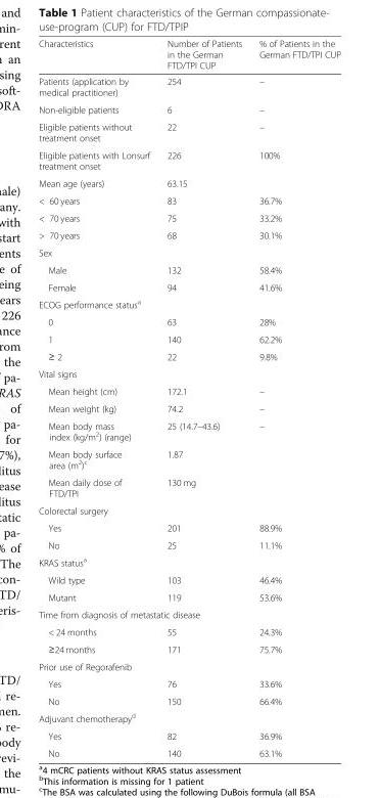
<table><thead><tr><td>Characteristics</td><td>Number of Patients in the German FTD/TPI CUP</td><td>% of Patients in the German FTD/TPI CUP</td></tr></thead><tbody><tr><td>Patients (application by medical practitioner)</td><td>254</td><td>–</td></tr><tr><td>Non-eligible patients</td><td>6</td><td>–</td></tr><tr><td>Eligible patients without treatment onset</td><td>22</td><td>–</td></tr><tr><td>Eligible patients with Lonsurf treatment onset</td><td>226</td><td>100%</td></tr><tr><td>Mean age (years)</td><td>63.15</td><td></td></tr><tr><td>&lt; 60 years</td><td>83</td><td>36.7%</td></tr><tr><td>&lt; 70 years</td><td>75</td><td>33.2%</td></tr><tr><td>&gt; 70 years</td><td>68</td><td>30.1%</td></tr><tr><td colspan="3">Sex</td></tr><tr><td>Male</td><td>132</td><td>58.4%</td></tr><tr><td>Female</td><td>94</td><td>41.6%</td></tr><tr><td colspan="3">ECOG performance status<sup>a</sup></td></tr><tr><td>0</td><td>63</td><td>28%</td></tr><tr><td>1</td><td>140</td><td>62.2%</td></tr><tr><td>≥ 2</td><td>22</td><td>9.8%</td></tr><tr><td colspan="3">Vital signs</td></tr><tr><td>Mean height (cm)</td><td>172.1</td><td>–</td></tr><tr><td>Mean weight (kg)</td><td>74.2</td><td>–</td></tr><tr><td>Mean body mass index (kg/m<sup>2</sup>) (range)</td><td>25 (14.7–43.6)</td><td>–</td></tr><tr><td>Mean body surface area (m<sup>2</sup>)<sup>c</sup></td><td>1.87</td><td></td></tr><tr><td>Mean daily dose of FTD/TPI</td><td>130 mg</td><td></td></tr><tr><td colspan="3">Colorectal surgery</td></tr><tr><td>Yes</td><td>201</td><td>88.9%</td></tr><tr><td>No</td><td>25</td><td>11.1%</td></tr><tr><td colspan="3">KRAS status<sup>a</sup></td></tr><tr><td>Wild type</td><td>103</td><td>46.4%</td></tr><tr><td>Mutant</td><td>119</td><td>53.6%</td></tr><tr><td colspan="3">Time from diagnosis of metastatic disease</td></tr><tr><td>&lt; 24 months</td><td>55</td><td>24.3%</td></tr><tr><td>≥24 months</td><td>171</td><td>75.7%</td></tr><tr><td colspan="3">Prior use of Regorafenib</td></tr><tr><td>Yes</td><td>76</td><td>33.6%</td></tr><tr><td>No</td><td>150</td><td>66.4%</td></tr><tr><td colspan="3">Adjuvant chemotherapy<sup>d</sup></td></tr><tr><td>Yes</td><td>82</td><td>36.9%</td></tr><tr><td>No</td><td>140</td><td>63.1%</td></tr></tbody></table>